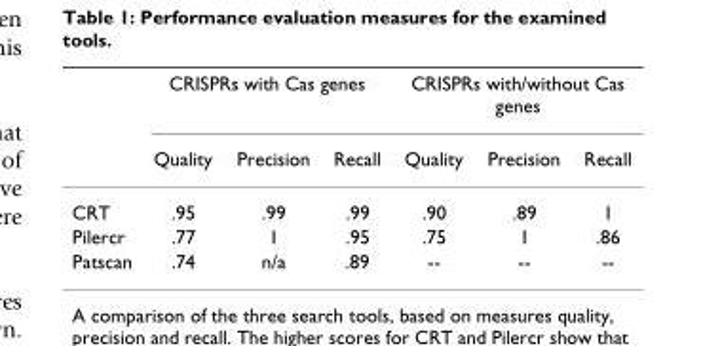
<table><thead><tr><td rowspan="2"></td><td colspan="3">CRISPRs with Cas genes</td><td colspan="3">CRISPRs with/without Cas genes</td></tr><tr><td>Quality</td><td>Precision</td><td>Recall</td><td>Quality</td><td>Precision</td><td>Recall</td></tr></thead><tbody><tr><td>CRT</td><td>.95</td><td>.99</td><td>.99</td><td>.90</td><td>.89</td><td>1</td></tr><tr><td>Pilercr</td><td>.77</td><td>1</td><td>.95</td><td>.75</td><td>1</td><td>.86</td></tr><tr><td>Patscan</td><td>.74</td><td>n/a</td><td>.89</td><td>--</td><td>--</td><td>--</td></tr></tbody></table>